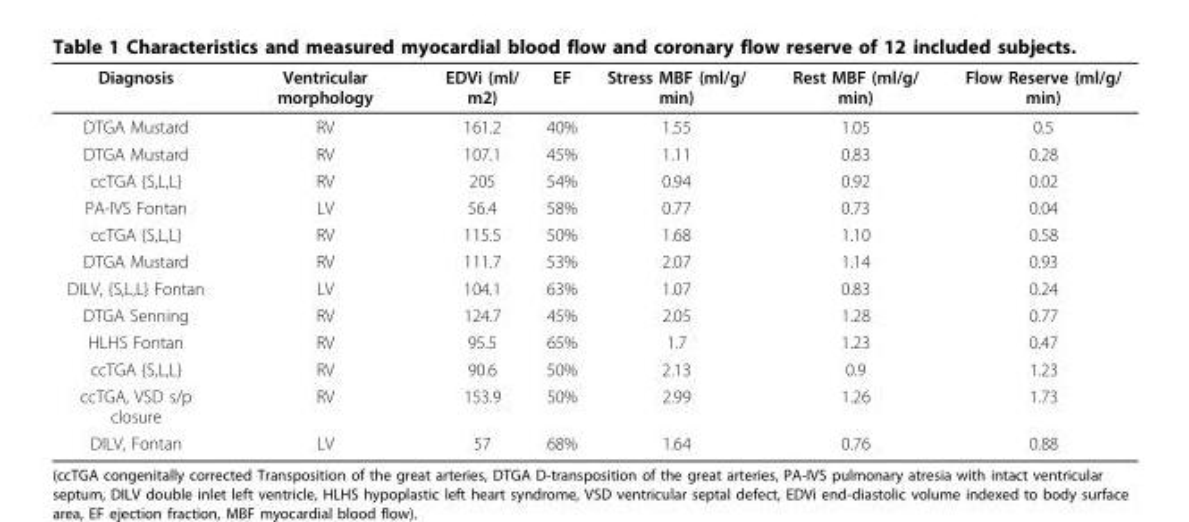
<table><thead><tr><td>Diagnosis</td><td>Ventricular morphology</td><td>EDVi (ml/ m2)</td><td>EF</td><td>Stress MBF (ml/g/ min)</td><td>Rest MBF (ml/g/ min)</td><td>Flow Reserve (ml/g/ min)</td></tr></thead><tbody><tr><td>DTGA Mustard</td><td>RV</td><td>161.2</td><td>40%</td><td>1.55</td><td>1.05</td><td>0.5</td></tr><tr><td>DTGA Mustard</td><td>RV</td><td>107.1</td><td>45%</td><td>1.11</td><td>0.83</td><td>0.28</td></tr><tr><td>ccTGA {S,L,L}</td><td>RV</td><td>205</td><td>54%</td><td>0.94</td><td>0.92</td><td>0.02</td></tr><tr><td>PA-IVS Fontan</td><td>LV</td><td>56.4</td><td>58%</td><td>0.77</td><td>0.73</td><td>0.04</td></tr><tr><td>ccTGA {S,L,L}</td><td>RV</td><td>115.5</td><td>50%</td><td>1.68</td><td>1.10</td><td>0.58</td></tr><tr><td>DTGA Mustard</td><td>RV</td><td>111.7</td><td>53%</td><td>2.07</td><td>1.14</td><td>0.93</td></tr><tr><td>DILV, {S,L,L} Fontan</td><td>LV</td><td>104.1</td><td>63%</td><td>1.07</td><td>0.83</td><td>0.24</td></tr><tr><td>DTGA Senning</td><td>RV</td><td>124.7</td><td>45%</td><td>2.05</td><td>1.28</td><td>0.77</td></tr><tr><td>HLHS Fontan</td><td>RV</td><td>95.5</td><td>65%</td><td>1.7</td><td>1.23</td><td>0.47</td></tr><tr><td>ccTGA {S,L,L}</td><td>RV</td><td>90.6</td><td>50%</td><td>2.13</td><td>0.9</td><td>1.23</td></tr><tr><td>ccTGA, VSD s/p closure</td><td>RV</td><td>153.9</td><td>50%</td><td>2.99</td><td>1.26</td><td>1.73</td></tr><tr><td>DILV, Fontan</td><td>LV</td><td>57</td><td>68%</td><td>1.64</td><td>0.76</td><td>0.88</td></tr></tbody></table>